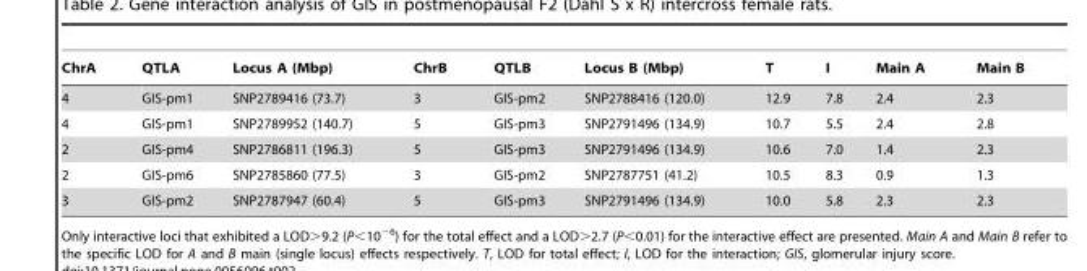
<table><thead><tr><td>ChrA</td><td>QTLA</td><td>Locus A (Mbp)</td><td>ChrB</td><td>QTLB</td><td>Locus B (Mbp)</td><td>T</td><td>I</td><td>Main A</td><td>Main B</td></tr></thead><tbody><tr><td>4</td><td>GIS-pm1</td><td>SNP2789416 (73.7)</td><td>3</td><td>GIS-pm2</td><td>SNP2788416 (120.0)</td><td>12.9</td><td>7.8</td><td>2.4</td><td>2.3</td></tr><tr><td>4</td><td>GIS-pm1</td><td>SNP2789952 (140.7)</td><td>5</td><td>GIS-pm3</td><td>SNP2791496 (134.9)</td><td>10.7</td><td>5.5</td><td>2.4</td><td>2.8</td></tr><tr><td>2</td><td>GIS-pm4</td><td>SNP2786811 (196.3)</td><td>5</td><td>GIS-pm3</td><td>SNP2791496 (134.9)</td><td>10.6</td><td>7.0</td><td>1.4</td><td>2.3</td></tr><tr><td>2</td><td>GIS-pm6</td><td>SNP2785860 (77.5)</td><td>3</td><td>GIS-pm2</td><td>SNP2787751 (41.2)</td><td>10.5</td><td>8.3</td><td>0.9</td><td>1.3</td></tr><tr><td>3</td><td>GIS-pm2</td><td>SNP2787947 (60.4)</td><td>5</td><td>GIS-pm3</td><td>SNP2791496 (134.9)</td><td>10.0</td><td>5.8</td><td>2.3</td><td>2.3</td></tr></tbody></table>